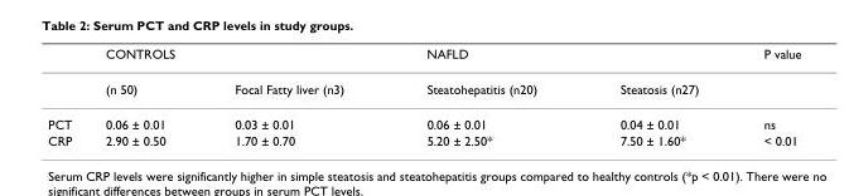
<table><thead><tr><td></td><td>CONTROLS</td><td></td><td>NAFLD</td><td></td><td>P value</td></tr></thead><tbody><tr><td></td><td>(n 50)</td><td>Focal Fatty liver (n3)</td><td>Steatohepatitis (n20)</td><td>Steatosis (n27)</td><td></td></tr><tr><td>PCT</td><td>0.06 ± 0.01</td><td>0.03 ± 0.01</td><td>0.06 ± 0.01</td><td>0.04 ± 0.01</td><td>ns</td></tr><tr><td>CRP</td><td>2.90 ± 0.50</td><td>1.70 ± 0.70</td><td>5.20 ± 2.50*</td><td>7.50 ± 1.60*</td><td>&lt; 0.01</td></tr></tbody></table>